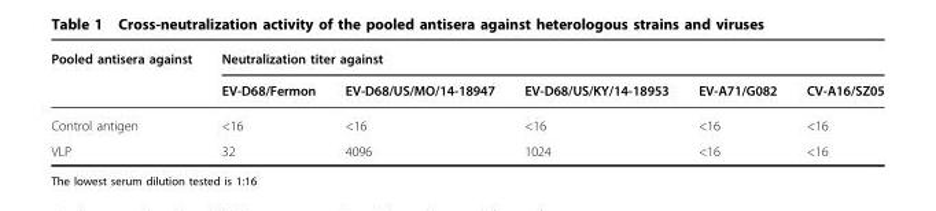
<table><thead><tr><td rowspan="2">Pooled antisera against</td><td colspan="5">Neutralization titer against</td></tr><tr><td>EV-D68/Fermon</td><td>EV-D68/US/MO/14-18947</td><td>EV-D68/US/KY/14-18953</td><td>EV-A71/G082</td><td>CV-A16/SZ05</td></tr></thead><tbody><tr><td>Control antigen</td><td>&lt;16</td><td>&lt;16</td><td>&lt;16</td><td>&lt;16</td><td>&lt;16</td></tr><tr><td>VLP</td><td>32</td><td>4096</td><td>1024</td><td>&lt;16</td><td>&lt;16</td></tr></tbody></table>